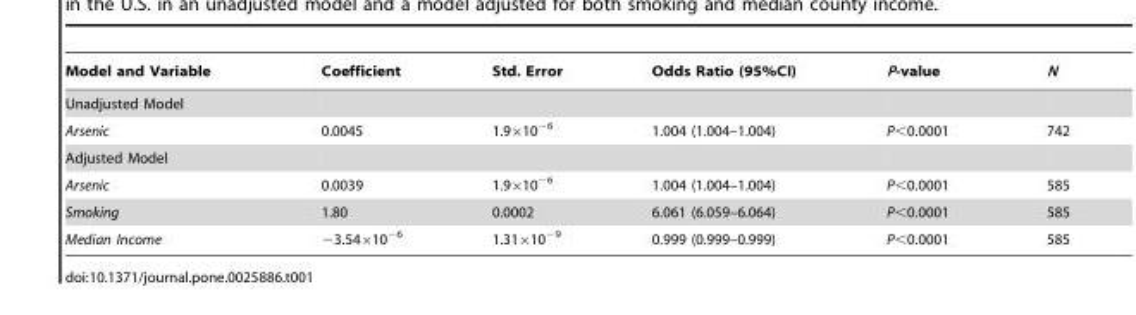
<table><thead><tr><td>Model and Variable</td><td>Coefficient</td><td>Std. Error</td><td>Odds Ratio (95%CI)</td><td>P-value</td><td>N</td></tr></thead><tbody><tr><td colspan="6">Unadjusted Model</td></tr><tr><td>Arsenic</td><td>0.0045</td><td>1.9×10<sup>−6</sup></td><td>1.004 (1.004–1.004)</td><td>P&lt;0.0001</td><td>742</td></tr><tr><td colspan="6">Adjusted Model</td></tr><tr><td>Arsenic</td><td>0.0039</td><td>1.9×10<sup>−6</sup></td><td>1.004 (1.004–1.004)</td><td>P&lt;0.0001</td><td>585</td></tr><tr><td>Smoking</td><td>1.80</td><td>0.0002</td><td>6.061 (6.059–6.064)</td><td>P&lt;0.0001</td><td>585</td></tr><tr><td>Median Income</td><td>−3.54×10<sup>−6</sup></td><td>1.31×10<sup>−9</sup></td><td>0.999 (0.999–0.999)</td><td>P&lt;0.0001</td><td>585</td></tr></tbody></table>